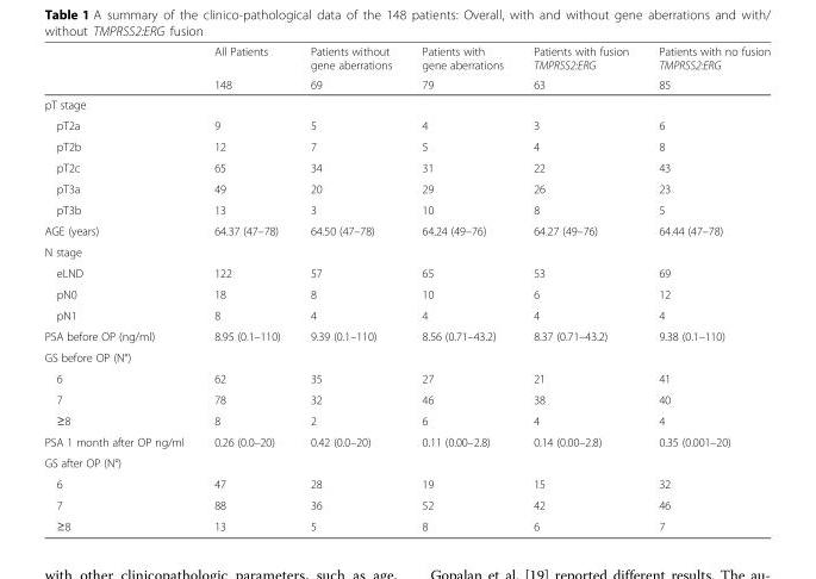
<table><thead><tr><td rowspan="2"></td><td rowspan="2">All Patients 148</td><td rowspan="2">Patients without gene aberrations 69</td><td rowspan="2">Patients with gene aberrations 79</td><td rowspan="2">Patients with fusion TMPRSS2:ERG 63</td><td rowspan="2">Patients with no fusion TMPRSS2:ERG 85</td></tr><tr></tr></thead><tbody><tr><td colspan="6">pT stage</td></tr><tr><td>pT2a</td><td>9</td><td>5</td><td>4</td><td>3</td><td>6</td></tr><tr><td>pT2b</td><td>12</td><td>7</td><td>5</td><td>4</td><td>8</td></tr><tr><td>pT2c</td><td>65</td><td>34</td><td>31</td><td>22</td><td>43</td></tr><tr><td>pT3a</td><td>49</td><td>20</td><td>29</td><td>26</td><td>23</td></tr><tr><td>pT3b</td><td>13</td><td>3</td><td>10</td><td>8</td><td>5</td></tr><tr><td>AGE (years)</td><td>64.37 (47–78)</td><td>64.50 (47–78)</td><td>64.24 (49–76)</td><td>64.27 (49–76)</td><td>64.44 (47–78)</td></tr><tr><td colspan="6">N stage</td></tr><tr><td>eLND</td><td>122</td><td>57</td><td>65</td><td>53</td><td>69</td></tr><tr><td>pN0</td><td>18</td><td>8</td><td>10</td><td>6</td><td>12</td></tr><tr><td>pN1</td><td>8</td><td>4</td><td>4</td><td>4</td><td>4</td></tr><tr><td>PSA before OP (ng/ml)</td><td>8.95 (0.1–110)</td><td>9.39 (0.1–110)</td><td>8.56 (0.71–43.2)</td><td>8.37 (0.71–43.2)</td><td>9.38 (0.1–110)</td></tr><tr><td colspan="6">GS before OP (N°)</td></tr><tr><td>6</td><td>62</td><td>35</td><td>27</td><td>21</td><td>41</td></tr><tr><td>7</td><td>78</td><td>32</td><td>46</td><td>38</td><td>40</td></tr><tr><td>≥8</td><td>8</td><td>2</td><td>6</td><td>4</td><td>4</td></tr><tr><td>PSA 1 month after OP ng/ml</td><td>0.26 (0.0–20)</td><td>0.42 (0.0–20)</td><td>0.11 (0.00–2.8)</td><td>0.14 (0.00–2.8)</td><td>0.35 (0.001–20)</td></tr><tr><td colspan="6">GS after OP (N°)</td></tr><tr><td>6</td><td>47</td><td>28</td><td>19</td><td>15</td><td>32</td></tr><tr><td>7</td><td>88</td><td>36</td><td>52</td><td>42</td><td>46</td></tr><tr><td>≥8</td><td>13</td><td>5</td><td>8</td><td>6</td><td>7</td></tr></tbody></table>